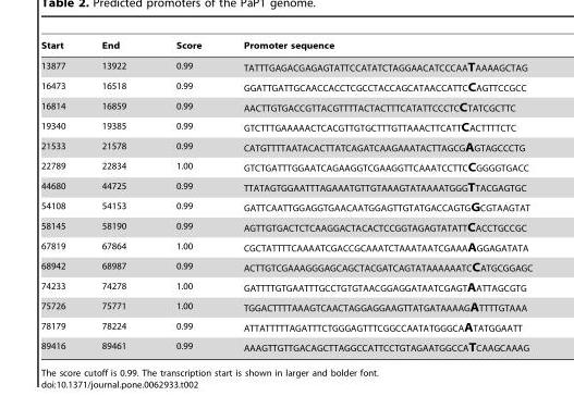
<table><thead><tr><td>Start</td><td>End</td><td>Score</td><td>Promoter sequence</td></tr></thead><tbody><tr><td>13877</td><td>13922</td><td>0.99</td><td>TATTTGAGACGAGAGTATTCCATATCTAGGAACATCCCAATAAAAGCTAG</td></tr><tr><td>16473</td><td>16518</td><td>0.99</td><td>GGATTGATTGCAACCACCTCGCCTACCAGCATAACCATTCCAGTTCCGCC</td></tr><tr><td>16814</td><td>16859</td><td>0.99</td><td>AACTTGTGACCGTTACGTTTTACTACTTTCATATTCCCTCCTATCGCTTC</td></tr><tr><td>19340</td><td>19385</td><td>0.99</td><td>GTCTTTGAAAAACTCACGTTGTGCTTTGTTAAACTTCATTCACTTTTCTC</td></tr><tr><td>21533</td><td>21578</td><td>0.99</td><td>CATGTTTTAATACACTTATCAGATCAAGAAATACTTAGCGAGTAGCCCTG</td></tr><tr><td>22789</td><td>22834</td><td>1.00</td><td>GTCTGATTTGGAATCAGAAGGTCGAAGGTTCAAATCCTTCCGGGGTGACC</td></tr><tr><td>44680</td><td>44725</td><td>0.99</td><td>TTATAGTGGAATTTAGAAATGTTGTAAAGTATAAAATGGGTTACGAGTGC</td></tr><tr><td>54108</td><td>54153</td><td>0.99</td><td>GATTCAATTGGAGGTGAACAATGGAGTTGTATGACCAGTGGCGTAAGTAT</td></tr><tr><td>58145</td><td>58190</td><td>0.99</td><td>AGTTGTGACTCTCAAGGACTACACTCCGGTAGAGTATATTCACCTGCCGC</td></tr><tr><td>67819</td><td>67864</td><td>1.00</td><td>CGCTATTTTCAAAATCGACCGCAAATCTAAATAATCGAAAAGGAGATATA</td></tr><tr><td>68942</td><td>68987</td><td>0.99</td><td>ACTTGTCGAAAGGGAGCAGCTACGATCAGTATAAAAAATCCATGCGGAGC</td></tr><tr><td>74233</td><td>74278</td><td>1.00</td><td>GATTTTGTGAATTTGCCTGTGTAACGGAGGATAATCGAGTAATTAGCGTG</td></tr><tr><td>75726</td><td>75771</td><td>1.00</td><td>TGGACTTTTAAAGTCAACTAGGAGGAAGTTATGATAAAAGATTTTGTAAA</td></tr><tr><td>78179</td><td>78224</td><td>0.99</td><td>ATTATTTTTAGATTTCTGGGAGTTTCGGCCAATATGGGCAATATGGAATT</td></tr><tr><td>89416</td><td>89461</td><td>0.99</td><td>AAAGTTGTTGACAGCTTAGGCCATTCCTGTAGAATGGCCATCAAGCAAAG</td></tr></tbody></table>